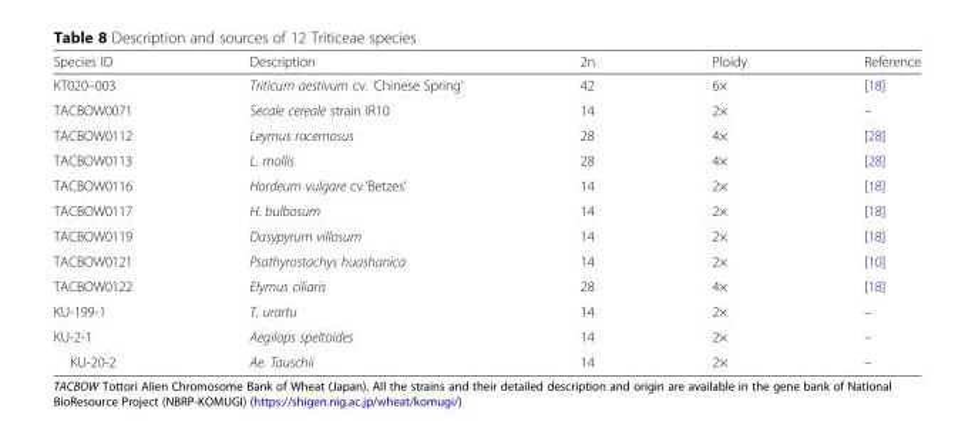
<table><thead><tr><td>Species ID</td><td>Description</td><td>2n</td><td>Ploidy</td><td>Reference</td></tr></thead><tbody><tr><td>KT020–003</td><td>Triticum aestivum cv. ‘Chinese Spring’</td><td>42</td><td>6×</td><td>[18]</td></tr><tr><td>TACBOW0071</td><td>Secale cereale strain IR10</td><td>14</td><td>2×</td><td>–</td></tr><tr><td>TACBOW0112</td><td>Leymus racemosus</td><td>28</td><td>4×</td><td>[28]</td></tr><tr><td>TACBOW0113</td><td>L. mollis</td><td>28</td><td>4×</td><td>[28]</td></tr><tr><td>TACBOW0116</td><td>Hordeum vulgare cv.’Betzes’</td><td>14</td><td>2×</td><td>[18]</td></tr><tr><td>TACBOW0117</td><td>H. bulbosum</td><td>14</td><td>2×</td><td>[18]</td></tr><tr><td>TACBOW0119</td><td>Dasypyrum villosum</td><td>14</td><td>2×</td><td>[18]</td></tr><tr><td>TACBOW0121</td><td>Psathyrostachys huashanica</td><td>14</td><td>2×</td><td>[10]</td></tr><tr><td>TACBOW0122</td><td>Elymus ciliaris</td><td>28</td><td>4×</td><td>[18]</td></tr><tr><td>KU-199-1</td><td>T. urartu</td><td>14</td><td>2×</td><td>–</td></tr><tr><td>KU-2-1</td><td>Aegilops speltoides</td><td>14</td><td>2×</td><td>–</td></tr><tr><td>KU-20-2</td><td>Ae. Tauschii</td><td>14</td><td>2×</td><td>–</td></tr></tbody></table>